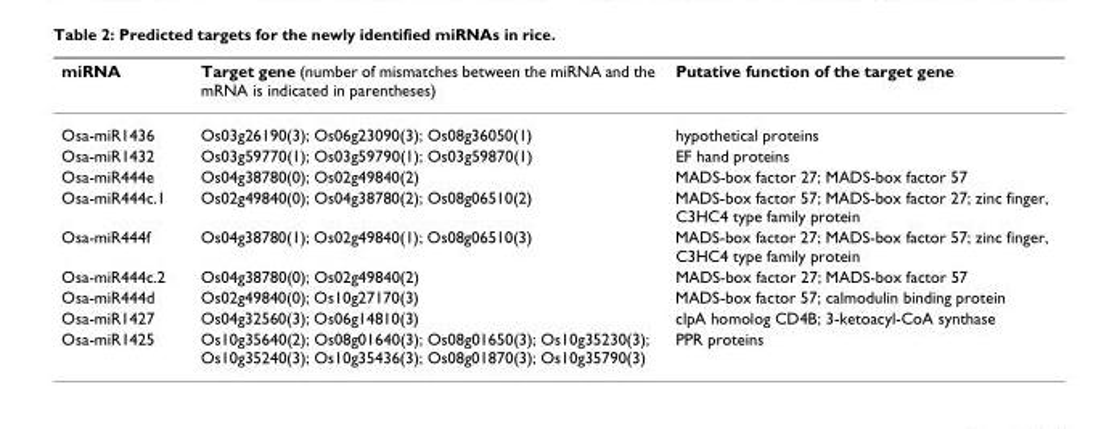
<table><thead><tr><td>miRNA</td><td>Target gene (number of mismatches between the miRNA and the mRNA is indicated in parentheses)</td><td>Putative function of the target gene</td></tr></thead><tbody><tr><td>Osa-miR1436</td><td>Os03g26190(3); Os06g23090(3); Os08g36050(1)</td><td>hypothetical proteins</td></tr><tr><td>Osa-miR1432</td><td>Os03g59770(1); Os03g59790(1); Os03g59870(1)</td><td>EF hand proteins</td></tr><tr><td>Osa-miR444e</td><td>Os04g38780(0); Os02g49840(2)</td><td>MADS-box factor 27; MADS-box factor 57</td></tr><tr><td>Osa-miR444c.1</td><td>Os02g49840(0); Os04g38780(2); Os08g06510(2)</td><td>MADS-box factor 57; MADS-box factor 27; zinc finger, C3HC4 type family protein</td></tr><tr><td>Osa-miR444f</td><td>Os04g38780(1); Os02g49840(1); Os08g06510(3)</td><td>MADS-box factor 27; MADS-box factor 57; zinc finger, C3HC4 type family protein</td></tr><tr><td>Osa-miR444c.2</td><td>Os04g38780(0); Os02g49840(2)</td><td>MADS-box factor 27; MADS-box factor 57</td></tr><tr><td>Osa-miR444d</td><td>Os02g49840(0); Os10g27170(3)</td><td>MADS-box factor 57; calmodulin binding protein</td></tr><tr><td>Osa-miR1427</td><td>Os04g32560(3); Os06g14810(3)</td><td>clpA homolog CD4B; 3-ketoacyl-CoA synthase</td></tr><tr><td>Osa-miR1425</td><td>Os10g35640(2); Os08g01640(3); Os08g01650(3); Os10g35230(3); Os10g35240(3); Os10g35436(3); Os08g01870(3); Os10g35790(3)</td><td>PPR proteins</td></tr></tbody></table>